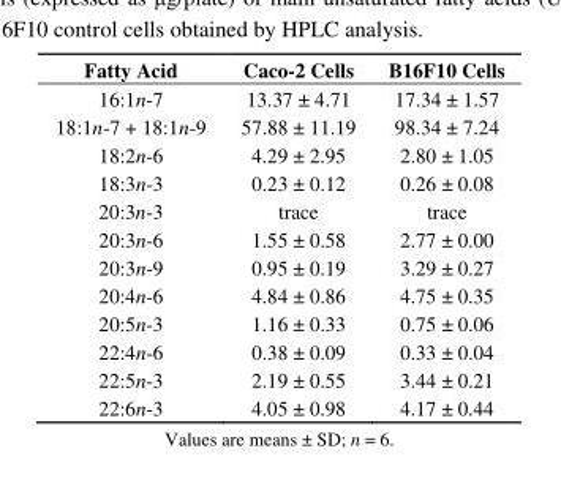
<table><thead><tr><td>Fatty Acid</td><td>Caco-2 Cells</td><td>B16F10 Cells</td></tr></thead><tbody><tr><td>16:1n-7</td><td>13.37 ± 4.71</td><td>17.34 ± 1.57</td></tr><tr><td>18:1n-7 + 18:1n-9</td><td>57.88 ± 11.19</td><td>98.34 ± 7.24</td></tr><tr><td>18:2n-6</td><td>4.29 ± 2.95</td><td>2.80 ± 1.05</td></tr><tr><td>18:3n-3</td><td>0.23 ± 0.12</td><td>0.26 ± 0.08</td></tr><tr><td>20:3n-3</td><td>trace</td><td>trace</td></tr><tr><td>20:3n-6</td><td>1.55 ± 0.58</td><td>2.77 ± 0.00</td></tr><tr><td>20:3n-9</td><td>0.95 ± 0.19</td><td>3.29 ± 0.27</td></tr><tr><td>20:4n-6</td><td>4.84 ± 0.86</td><td>4.75 ± 0.35</td></tr><tr><td>20:5n-3</td><td>1.16 ± 0.33</td><td>0.75 ± 0.06</td></tr><tr><td>22:4n-6</td><td>0.38 ± 0.09</td><td>0.33 ± 0.04</td></tr><tr><td>22:5n-3</td><td>2.19 ± 0.55</td><td>3.44 ± 0.21</td></tr><tr><td>22:6n-3</td><td>4.05 ± 0.98</td><td>4.17 ± 0.44</td></tr></tbody></table>